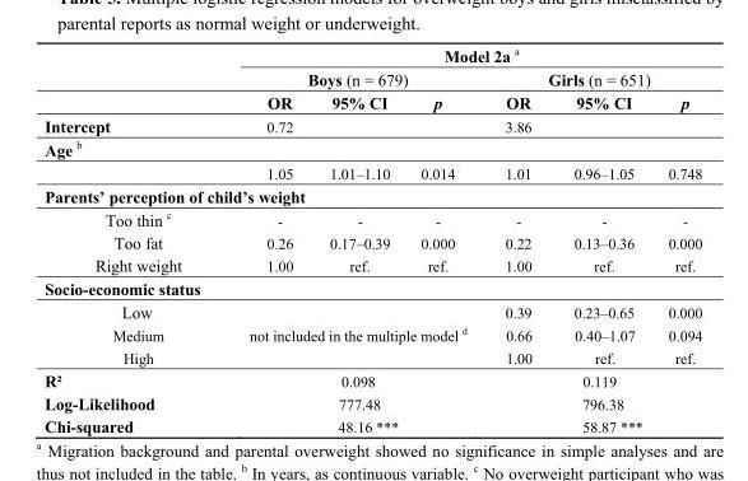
<table><thead><tr><td rowspan="3"></td><td colspan="6">Model 2a <sup>a</sup></td></tr><tr><td colspan="3">Boys (n = 679)</td><td colspan="3">Girls (n = 651)</td></tr><tr><td>OR</td><td>95% CI</td><td>p</td><td>OR</td><td>95% CI</td><td>p</td></tr></thead><tbody><tr><td>Intercept</td><td>0.72</td><td></td><td></td><td>3.86</td><td></td><td></td></tr><tr><td colspan="7">Age <sup>b</sup></td></tr><tr><td></td><td>1.05</td><td>1.01–1.10</td><td>0.014</td><td>1.01</td><td>0.96–1.05</td><td>0.748</td></tr><tr><td colspan="7">Parents’ perception of child’s weight</td></tr><tr><td>Too thin <sup>c</sup></td><td>-</td><td>-</td><td>-</td><td>-</td><td>-</td><td>-</td></tr><tr><td>Too fat</td><td>0.26</td><td>0.17–0.39</td><td>0.000</td><td>0.22</td><td>0.13–0.36</td><td>0.000</td></tr><tr><td>Right weight</td><td>1.00</td><td>ref.</td><td>ref.</td><td>1.00</td><td>ref.</td><td>ref.</td></tr><tr><td colspan="7">Socio-economic status</td></tr><tr><td>Low</td><td colspan="3"></td><td>0.39</td><td>0.23–0.65</td><td>0.000</td></tr><tr><td>Medium</td><td colspan="3">not included in the multiple model <sup>d</sup></td><td>0.66</td><td>0.40–1.07</td><td>0.094</td></tr><tr><td>High</td><td colspan="3"></td><td>1.00</td><td>ref.</td><td>ref.</td></tr><tr><td>R²</td><td colspan="3">0.098</td><td colspan="3">0.119</td></tr><tr><td>Log-Likelihood</td><td colspan="3">777.48</td><td colspan="3">796.38</td></tr><tr><td>Chi-squared</td><td colspan="3">48.16 ***</td><td colspan="3">58.87 ***</td></tr></tbody></table>